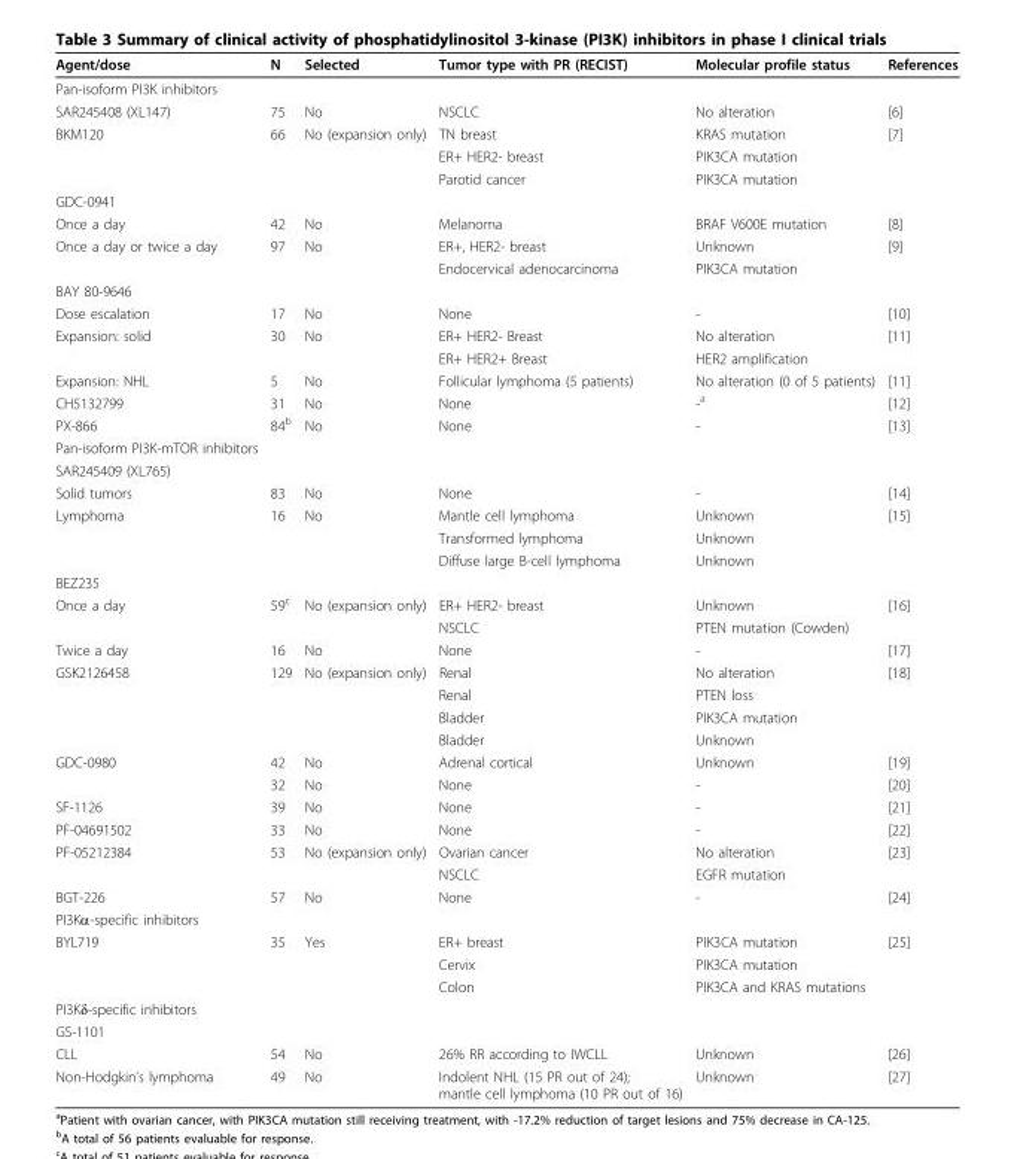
<table><thead><tr><td>Agent/dose</td><td>N</td><td>Selected</td><td>Tumor type with PR (RECIST)</td><td>Molecular profile status</td><td>References</td></tr></thead><tbody><tr><td colspan="6">Pan-isoform PI3K inhibitors</td></tr><tr><td>SAR245408 (XL147)</td><td>75</td><td>No</td><td>NSCLC</td><td>No alteration</td><td>[6]</td></tr><tr><td rowspan="3">BKM120</td><td>66</td><td>No (expansion only)</td><td>TN breast</td><td>KRAS mutation</td><td>[7]</td></tr><tr><td></td><td></td><td>ER+ HER2- breast</td><td>PIK3CA mutation</td><td></td></tr><tr><td></td><td></td><td>Parotid cancer</td><td>PIK3CA mutation</td><td></td></tr><tr><td colspan="6">GDC-0941</td></tr><tr><td>Once a day</td><td>42</td><td>No</td><td>Melanoma</td><td>BRAF V600E mutation</td><td>[8]</td></tr><tr><td rowspan="2">Once a day or twice a day</td><td>97</td><td>No</td><td>ER+, HER2- breast</td><td>Unknown</td><td>[9]</td></tr><tr><td></td><td></td><td>Endocervical adenocarcinoma</td><td>PIK3CA mutation</td><td></td></tr><tr><td colspan="6">BAY 80-9646</td></tr><tr><td>Dose escalation</td><td>17</td><td>No</td><td>None</td><td>-</td><td>[10]</td></tr><tr><td rowspan="2">Expansion: solid</td><td>30</td><td>No</td><td>ER+ HER2- Breast</td><td>No alteration</td><td>[11]</td></tr><tr><td></td><td></td><td>ER+ HER2+ Breast</td><td>HER2 amplification</td><td></td></tr><tr><td>Expansion: NHL</td><td>5</td><td>No</td><td>Follicular lymphoma (5 patients)</td><td>No alteration (0 of 5 patients)</td><td>[11]</td></tr><tr><td>CH5132799</td><td>31</td><td>No</td><td>None</td><td>-<sup>a</sup></td><td>[12]</td></tr><tr><td>PX-866</td><td>84<sup>b</sup></td><td>No</td><td>None</td><td>-</td><td>[13]</td></tr><tr><td colspan="6">Pan-isoform PI3K-mTOR inhibitors</td></tr><tr><td colspan="6">SAR245409 (XL765)</td></tr><tr><td>Solid tumors</td><td>83</td><td>No</td><td>None</td><td>-</td><td>[14]</td></tr><tr><td rowspan="3">Lymphoma</td><td>16</td><td>No</td><td>Mantle cell lymphoma</td><td>Unknown</td><td>[15]</td></tr><tr><td></td><td></td><td>Transformed lymphoma</td><td>Unknown</td><td></td></tr><tr><td></td><td></td><td>Diffuse large B-cell lymphoma</td><td>Unknown</td><td></td></tr><tr><td colspan="6">BEZ235</td></tr><tr><td rowspan="2">Once a day</td><td>59<sup>c</sup></td><td>No (expansion only)</td><td>ER+ HER2- breast</td><td>Unknown</td><td>[16]</td></tr><tr><td></td><td></td><td>NSCLC</td><td>PTEN mutation (Cowden)</td><td></td></tr><tr><td>Twice a day</td><td>16</td><td>No</td><td>None</td><td>-</td><td>[17]</td></tr><tr><td rowspan="4">GSK2126458</td><td>129</td><td>No (expansion only)</td><td>Renal</td><td>No alteration</td><td>[18]</td></tr><tr><td></td><td></td><td>Renal</td><td>PTEN loss</td><td></td></tr><tr><td></td><td></td><td>Bladder</td><td>PIK3CA mutation</td><td></td></tr><tr><td></td><td></td><td>Bladder</td><td>Unknown</td><td></td></tr><tr><td rowspan="2">GDC-0980</td><td>42</td><td>No</td><td>Adrenal cortical</td><td>Unknown</td><td>[19]</td></tr><tr><td>32</td><td>No</td><td>None</td><td>-</td><td>[20]</td></tr><tr><td>SF-1126</td><td>39</td><td>No</td><td>None</td><td>-</td><td>[21]</td></tr><tr><td>PF-04691502</td><td>33</td><td>No</td><td>None</td><td>-</td><td>[22]</td></tr><tr><td rowspan="2">PF-05212384</td><td>53</td><td>No (expansion only)</td><td>Ovarian cancer</td><td>No alteration</td><td>[23]</td></tr><tr><td></td><td></td><td>NSCLC</td><td>EGFR mutation</td><td></td></tr><tr><td>BGT-226</td><td>57</td><td>No</td><td>None</td><td>-</td><td>[24]</td></tr><tr><td colspan="6">PI3Kα-specific inhibitors</td></tr><tr><td rowspan="3">BYL719</td><td>35</td><td>Yes</td><td>ER+ breast</td><td>PIK3CA mutation</td><td>[25]</td></tr><tr><td></td><td></td><td>Cervix</td><td>PIK3CA mutation</td><td></td></tr><tr><td></td><td></td><td>Colon</td><td>PIK3CA and KRAS mutations</td><td></td></tr><tr><td colspan="6">PI3Kδ-specific inhibitors</td></tr><tr><td colspan="6">GS-1101</td></tr><tr><td>CLL</td><td>54</td><td>No</td><td>26% RR according to IWCLL</td><td>Unknown</td><td>[26]</td></tr><tr><td>Non-Hodgkin’s lymphoma</td><td>49</td><td>No</td><td>Indolent NHL (15 PR out of 24); mantle cell lymphoma (10 PR out of 16)</td><td>Unknown</td><td>[27]</td></tr></tbody></table>